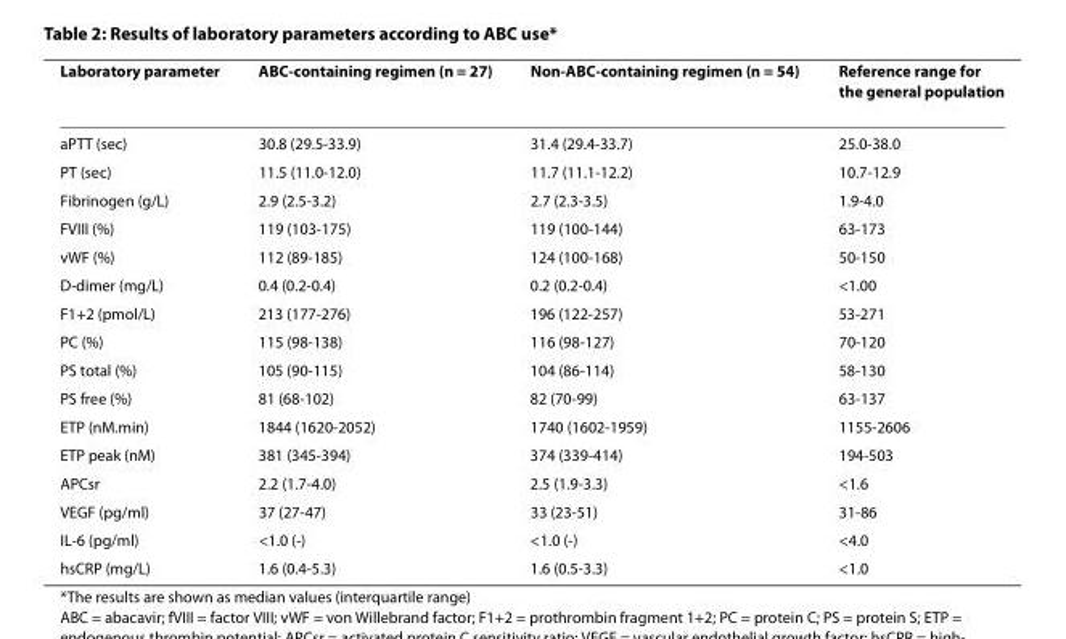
<table><thead><tr><td>Laboratory parameter</td><td>ABC-containing regimen (n = 27)</td><td>Non-ABC-containing regimen (n = 54)</td><td>Reference range for the general population</td></tr></thead><tbody><tr><td>aPTT (sec)</td><td>30.8 (29.5-33.9)</td><td>31.4 (29.4-33.7)</td><td>25.0-38.0</td></tr><tr><td>PT (sec)</td><td>11.5 (11.0-12.0)</td><td>11.7 (11.1-12.2)</td><td>10.7-12.9</td></tr><tr><td>Fibrinogen (g/L)</td><td>2.9 (2.5-3.2)</td><td>2.7 (2.3-3.5)</td><td>1.9-4.0</td></tr><tr><td>FVIII (%)</td><td>119 (103-175)</td><td>119 (100-144)</td><td>63-173</td></tr><tr><td>vWF (%)</td><td>112 (89-185)</td><td>124 (100-168)</td><td>50-150</td></tr><tr><td>D-dimer (mg/L)</td><td>0.4 (0.2-0.4)</td><td>0.2 (0.2-0.4)</td><td>&lt;1.00</td></tr><tr><td>F1+2 (pmol/L)</td><td>213 (177-276)</td><td>196 (122-257)</td><td>53-271</td></tr><tr><td>PC (%)</td><td>115 (98-138)</td><td>116 (98-127)</td><td>70-120</td></tr><tr><td>PS total (%)</td><td>105 (90-115)</td><td>104 (86-114)</td><td>58-130</td></tr><tr><td>PS free (%)</td><td>81 (68-102)</td><td>82 (70-99)</td><td>63-137</td></tr><tr><td>ETP (nM.min)</td><td>1844 (1620-2052)</td><td>1740 (1602-1959)</td><td>1155-2606</td></tr><tr><td>ETP peak (nM)</td><td>381 (345-394)</td><td>374 (339-414)</td><td>194-503</td></tr><tr><td>APCsr</td><td>2.2 (1.7-4.0)</td><td>2.5 (1.9-3.3)</td><td>&lt;1.6</td></tr><tr><td>VEGF (pg/ml)</td><td>37 (27-47)</td><td>33 (23-51)</td><td>31-86</td></tr><tr><td>IL-6 (pg/ml)</td><td>&lt;1.0 (-)</td><td>&lt;1.0 (-)</td><td>&lt;4.0</td></tr><tr><td>hsCRP (mg/L)</td><td>1.6 (0.4-5.3)</td><td>1.6 (0.5-3.3)</td><td>&lt;1.0</td></tr></tbody></table>